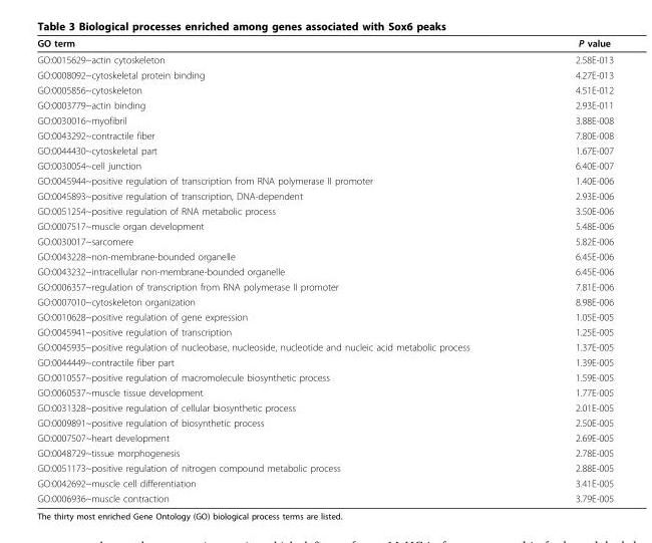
<table><thead><tr><td>GO term</td><td>P value</td></tr></thead><tbody><tr><td>GO:0015629~actin cytoskeleton</td><td>2.58E-013</td></tr><tr><td>GO:0008092~cytoskeletal protein binding</td><td>4.27E-013</td></tr><tr><td>GO:0005856~cytoskeleton</td><td>4.51E-012</td></tr><tr><td>GO:0003779~actin binding</td><td>2.93E-011</td></tr><tr><td>GO:0030016~myofibril</td><td>3.88E-008</td></tr><tr><td>GO:0043292~contractile fiber</td><td>7.80E-008</td></tr><tr><td>GO:0044430~cytoskeletal part</td><td>1.67E-007</td></tr><tr><td>GO:0030054~cell junction</td><td>6.40E-007</td></tr><tr><td>GO:0045944~positive regulation of transcription from RNA polymerase II promoter</td><td>1.40E-006</td></tr><tr><td>GO:0045893~positive regulation of transcription, DNA-dependent</td><td>2.93E-006</td></tr><tr><td>GO:0051254~positive regulation of RNA metabolic process</td><td>3.50E-006</td></tr><tr><td>GO:0007517~muscle organ development</td><td>5.48E-006</td></tr><tr><td>GO:0030017~sarcomere</td><td>5.82E-006</td></tr><tr><td>GO:0043228~non-membrane-bounded organelle</td><td>6.45E-006</td></tr><tr><td>GO:0043232~intracellular non-membrane-bounded organelle</td><td>6.45E-006</td></tr><tr><td>GO:0006357~regulation of transcription from RNA polymerase II promoter</td><td>7.81E-006</td></tr><tr><td>GO:0007010~cytoskeleton organization</td><td>8.98E-006</td></tr><tr><td>GO:0010628~positive regulation of gene expression</td><td>1.05E-005</td></tr><tr><td>GO:0045941~positive regulation of transcription</td><td>1.25E-005</td></tr><tr><td>GO:0045935~positive regulation of nucleobase, nucleoside, nucleotide and nucleic acid metabolic process</td><td>1.37E-005</td></tr><tr><td>GO:0044449~contractile fiber part</td><td>1.39E-005</td></tr><tr><td>GO:0010557~positive regulation of macromolecule biosynthetic process</td><td>1.59E-005</td></tr><tr><td>GO:0060537~muscle tissue development</td><td>1.77E-005</td></tr><tr><td>GO:0031328~positive regulation of cellular biosynthetic process</td><td>2.01E-005</td></tr><tr><td>GO:0009891~positive regulation of biosynthetic process</td><td>2.50E-005</td></tr><tr><td>GO:0007507~heart development</td><td>2.69E-005</td></tr><tr><td>GO:0048729~tissue morphogenesis</td><td>2.78E-005</td></tr><tr><td>GO:0051173~positive regulation of nitrogen compound metabolic process</td><td>2.88E-005</td></tr><tr><td>GO:0042692~muscle cell differentiation</td><td>3.41E-005</td></tr><tr><td>GO:0006936~muscle contraction</td><td>3.79E-005</td></tr></tbody></table>